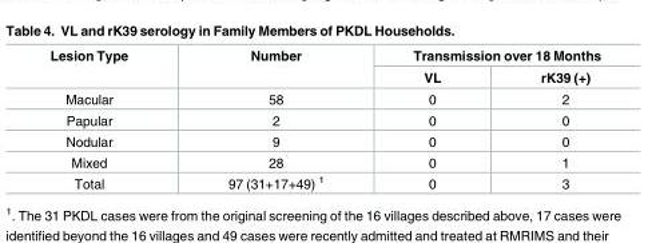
<table><thead><tr><td rowspan="2">Lesion Type</td><td rowspan="2">Number</td><td colspan="2">Transmission over 18 Months</td></tr><tr><td>VL</td><td>rK39 (+)</td></tr></thead><tbody><tr><td>Macular</td><td>58</td><td>0</td><td>2</td></tr><tr><td>Papular</td><td>2</td><td>0</td><td>0</td></tr><tr><td>Nodular</td><td>9</td><td>0</td><td>0</td></tr><tr><td>Mixed</td><td>28</td><td>0</td><td>1</td></tr><tr><td>Total</td><td>97 (31+17+49) <sup>1</sup></td><td>0</td><td>3</td></tr></tbody></table>